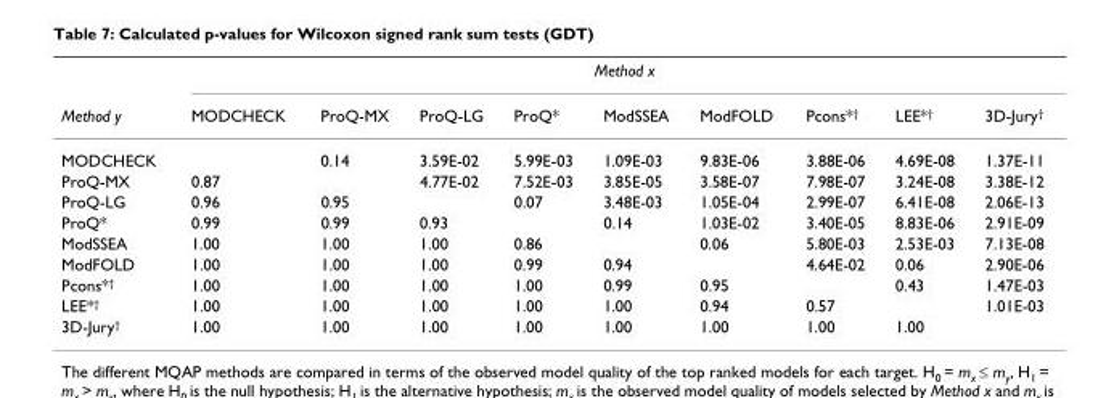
<table><thead><tr><td rowspan="2">Method y</td><td colspan="9">Method x</td></tr><tr><td>MODCHECK</td><td>ProQ-MX</td><td>ProQ-LG</td><td>ProQ*</td><td>ModSSEA</td><td>ModFOLD</td><td>Pcons*<sup>†</sup></td><td>LEE*<sup>†</sup></td><td>3D-Jury<sup>†</sup></td></tr></thead><tbody><tr><td>MODCHECK</td><td></td><td>0.14</td><td>3.59E-02</td><td>5.99E-03</td><td>1.09E-03</td><td>9.83E-06</td><td>3.88E-06</td><td>4.69E-08</td><td>1.37E-11</td></tr><tr><td>ProQ-MX</td><td>0.87</td><td></td><td>4.77E-02</td><td>7.52E-03</td><td>3.85E-05</td><td>3.58E-07</td><td>7.98E-07</td><td>3.24E-08</td><td>3.38E-12</td></tr><tr><td>ProQ-LG</td><td>0.96</td><td>0.95</td><td></td><td>0.07</td><td>3.48E-03</td><td>1.05E-04</td><td>2.99E-07</td><td>6.41E-08</td><td>2.06E-13</td></tr><tr><td>ProQ*</td><td>0.99</td><td>0.99</td><td>0.93</td><td></td><td>0.14</td><td>1.03E-02</td><td>3.40E-05</td><td>8.83E-06</td><td>2.91E-09</td></tr><tr><td>ModSSEA</td><td>1.00</td><td>1.00</td><td>1.00</td><td>0.86</td><td></td><td>0.06</td><td>5.80E-03</td><td>2.53E-03</td><td>7.13E-08</td></tr><tr><td>ModFOLD</td><td>1.00</td><td>1.00</td><td>1.00</td><td>0.99</td><td>0.94</td><td></td><td>4.64E-02</td><td>0.06</td><td>2.90E-06</td></tr><tr><td>Pcons*<sup>†</sup></td><td>1.00</td><td>1.00</td><td>1.00</td><td>1.00</td><td>0.99</td><td>0.95</td><td></td><td>0.43</td><td>1.47E-03</td></tr><tr><td>LEE*<sup>†</sup></td><td>1.00</td><td>1.00</td><td>1.00</td><td>1.00</td><td>1.00</td><td>0.94</td><td>0.57</td><td></td><td>1.01E-03</td></tr><tr><td>3D-Jury<sup>†</sup></td><td>1.00</td><td>1.00</td><td>1.00</td><td>1.00</td><td>1.00</td><td>1.00</td><td>1.00</td><td>1.00</td><td></td></tr></tbody></table>